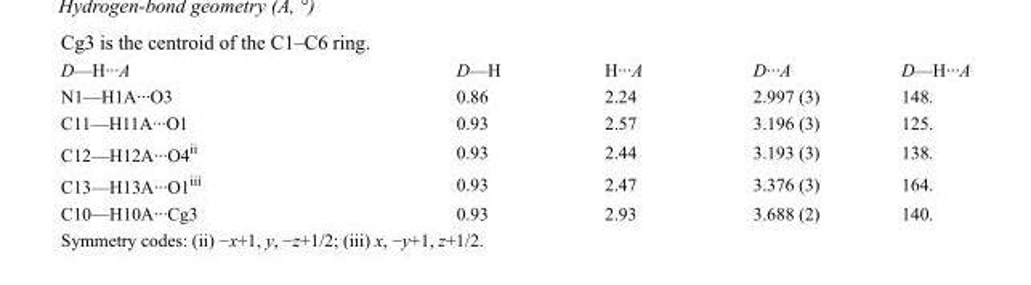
<table><tbody><tr><td>D—H···A</td><td>D—H</td><td>H···A</td><td>D···A</td><td>D—H···A</td></tr><tr><td>N1—H1A···O3</td><td>0.86</td><td>2.24</td><td>2.997 (3)</td><td>148.</td></tr><tr><td>C11—H11A···O1</td><td>0.93</td><td>2.57</td><td>3.196 (3)</td><td>125.</td></tr><tr><td>C12—H12A···O4<sup>ii</sup></td><td>0.93</td><td>2.44</td><td>3.193 (3)</td><td>138.</td></tr><tr><td>C13—H13A···O1<sup>iii</sup></td><td>0.93</td><td>2.47</td><td>3.376 (3)</td><td>164.</td></tr><tr><td>C10—H10A···Cg3</td><td>0.93</td><td>2.93</td><td>3.688 (2)</td><td>140.</td></tr></tbody></table>